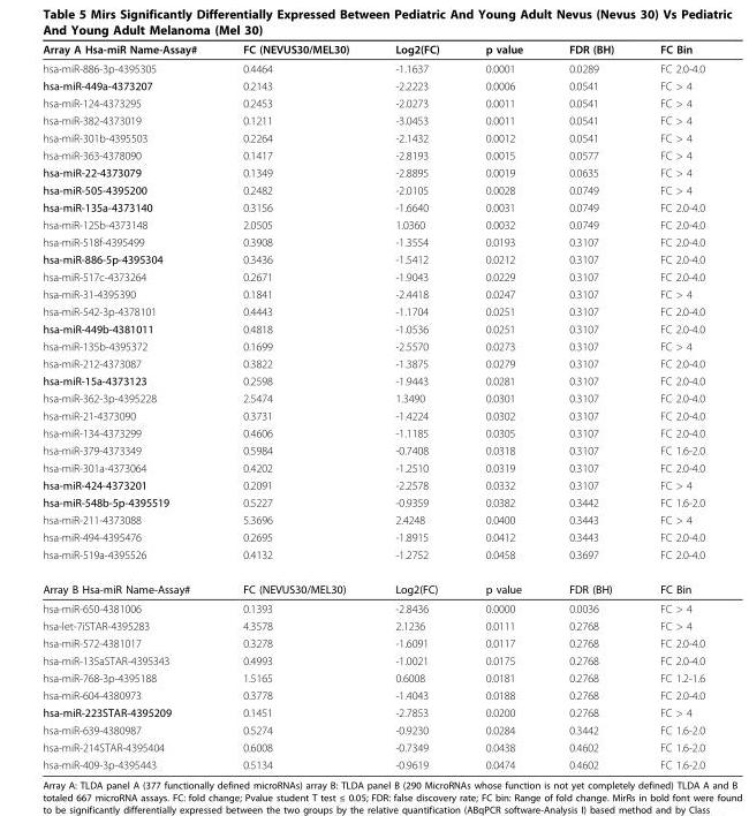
<table><thead><tr><td>Array A Hsa-miR Name-Assay#</td><td>FC (NEVUS30/MEL30)</td><td>Log2(FC)</td><td>p value</td><td>FDR (BH)</td><td>FC Bin</td></tr></thead><tbody><tr><td>hsa-miR-886-3p-4395305</td><td>0.4464</td><td>-1.1637</td><td>0.0001</td><td>0.0289</td><td>FC 2.0-4.0</td></tr><tr><td>hsa-miR-449a-4373207</td><td>0.2143</td><td>-2.2223</td><td>0.0006</td><td>0.0541</td><td>FC &gt; 4</td></tr><tr><td>hsa-miR-124-4373295</td><td>0.2453</td><td>-2.0273</td><td>0.0011</td><td>0.0541</td><td>FC &gt; 4</td></tr><tr><td>hsa-miR-382-4373019</td><td>0.1211</td><td>-3.0453</td><td>0.0011</td><td>0.0541</td><td>FC &gt; 4</td></tr><tr><td>hsa-miR-301b-4395503</td><td>0.2264</td><td>-2.1432</td><td>0.0012</td><td>0.0541</td><td>FC &gt; 4</td></tr><tr><td>hsa-miR-363-4378090</td><td>0.1417</td><td>-2.8193</td><td>0.0015</td><td>0.0577</td><td>FC &gt; 4</td></tr><tr><td>hsa-miR-22-4373079</td><td>0.1349</td><td>-2.8895</td><td>0.0019</td><td>0.0635</td><td>FC &gt; 4</td></tr><tr><td>hsa-miR-505-4395200</td><td>0.2482</td><td>-2.0105</td><td>0.0028</td><td>0.0749</td><td>FC &gt; 4</td></tr><tr><td>hsa-miR-135a-4373140</td><td>0.3156</td><td>-1.6640</td><td>0.0031</td><td>0.0749</td><td>FC 2.0-4.0</td></tr><tr><td>hsa-miR-125b-4373148</td><td>2.0505</td><td>1.0360</td><td>0.0032</td><td>0.0749</td><td>FC 2.0-4.0</td></tr><tr><td>hsa-miR-518f-4395499</td><td>0.3908</td><td>-1.3554</td><td>0.0193</td><td>0.3107</td><td>FC 2.0-4.0</td></tr><tr><td>hsa-miR-886-5p-4395304</td><td>0.3436</td><td>-1.5412</td><td>0.0212</td><td>0.3107</td><td>FC 2.0-4.0</td></tr><tr><td>hsa-miR-517c-4373264</td><td>0.2671</td><td>-1.9043</td><td>0.0229</td><td>0.3107</td><td>FC 2.0-4.0</td></tr><tr><td>hsa-miR-31-4395390</td><td>0.1841</td><td>-2.4418</td><td>0.0247</td><td>0.3107</td><td>FC &gt; 4</td></tr><tr><td>hsa-miR-542-3p-4378101</td><td>0.4443</td><td>-1.1704</td><td>0.0251</td><td>0.3107</td><td>FC 2.0-4.0</td></tr><tr><td>hsa-miR-449b-4381011</td><td>0.4818</td><td>-1.0536</td><td>0.0251</td><td>0.3107</td><td>FC 2.0-4.0</td></tr><tr><td>hsa-miR-135b-4395372</td><td>0.1699</td><td>-2.5570</td><td>0.0273</td><td>0.3107</td><td>FC &gt; 4</td></tr><tr><td>hsa-miR-212-4373087</td><td>0.3822</td><td>-1.3875</td><td>0.0279</td><td>0.3107</td><td>FC 2.0-4.0</td></tr><tr><td>hsa-miR-15a-4373123</td><td>0.2598</td><td>-1.9443</td><td>0.0281</td><td>0.3107</td><td>FC 2.0-4.0</td></tr><tr><td>hsa-miR-362-3p-4395228</td><td>2.5474</td><td>1.3490</td><td>0.0301</td><td>0.3107</td><td>FC 2.0-4.0</td></tr><tr><td>hsa-miR-21-4373090</td><td>0.3731</td><td>-1.4224</td><td>0.0302</td><td>0.3107</td><td>FC 2.0-4.0</td></tr><tr><td>hsa-miR-134-4373299</td><td>0.4606</td><td>-1.1185</td><td>0.0305</td><td>0.3107</td><td>FC 2.0-4.0</td></tr><tr><td>hsa-miR-379-4373349</td><td>0.5984</td><td>-0.7408</td><td>0.0318</td><td>0.3107</td><td>FC 1.6-2.0</td></tr><tr><td>hsa-miR-301a-4373064</td><td>0.4202</td><td>-1.2510</td><td>0.0319</td><td>0.3107</td><td>FC 2.0-4.0</td></tr><tr><td>hsa-miR-424-4373201</td><td>0.2091</td><td>-2.2578</td><td>0.0332</td><td>0.3107</td><td>FC &gt; 4</td></tr><tr><td>hsa-miR-548b-5p-4395519</td><td>0.5227</td><td>-0.9359</td><td>0.0382</td><td>0.3442</td><td>FC 1.6-2.0</td></tr><tr><td>hsa-miR-211-4373088</td><td>5.3696</td><td>2.4248</td><td>0.0400</td><td>0.3443</td><td>FC &gt; 4</td></tr><tr><td>hsa-miR-494-4395476</td><td>0.2695</td><td>-1.8915</td><td>0.0412</td><td>0.3443</td><td>FC 2.0-4.0</td></tr><tr><td>hsa-miR-519a-4395526</td><td>0.4132</td><td>-1.2752</td><td>0.0458</td><td>0.3697</td><td>FC 2.0-4.0</td></tr><tr><td>Array B Hsa-miR Name-Assay#</td><td>FC (NEVUS30/MEL30)</td><td>Log2(FC)</td><td>p value</td><td>FDR (BH)</td><td>FC Bin</td></tr><tr><td>hsa-miR-650-4381006</td><td>0.1393</td><td>-2.8436</td><td>0.0000</td><td>0.0036</td><td>FC &gt; 4</td></tr><tr><td>hsa-let-7iSTAR-4395283</td><td>4.3578</td><td>2.1236</td><td>0.0111</td><td>0.2768</td><td>FC &gt; 4</td></tr><tr><td>hsa-miR-572-4381017</td><td>0.3278</td><td>-1.6091</td><td>0.0117</td><td>0.2768</td><td>FC 2.0-4.0</td></tr><tr><td>hsa-miR-135aSTAR-4395343</td><td>0.4993</td><td>-1.0021</td><td>0.0175</td><td>0.2768</td><td>FC 2.0-4.0</td></tr><tr><td>hsa-miR-768-3p-4395188</td><td>1.5165</td><td>0.6008</td><td>0.0181</td><td>0.2768</td><td>FC 1.2-1.6</td></tr><tr><td>hsa-miR-604-4380973</td><td>0.3778</td><td>-1.4043</td><td>0.0188</td><td>0.2768</td><td>FC 2.0-4.0</td></tr><tr><td>hsa-miR-223STAR-4395209</td><td>0.1451</td><td>-2.7853</td><td>0.0200</td><td>0.2768</td><td>FC &gt; 4</td></tr><tr><td>hsa-miR-639-4380987</td><td>0.5274</td><td>-0.9230</td><td>0.0284</td><td>0.3442</td><td>FC 1.6-2.0</td></tr><tr><td>hsa-miR-214STAR-4395404</td><td>0.6008</td><td>-0.7349</td><td>0.0438</td><td>0.4602</td><td>FC 1.6-2.0</td></tr><tr><td>hsa-miR-409-3p-4395443</td><td>0.5134</td><td>-0.9619</td><td>0.0474</td><td>0.4602</td><td>FC 1.6-2.0</td></tr></tbody></table>